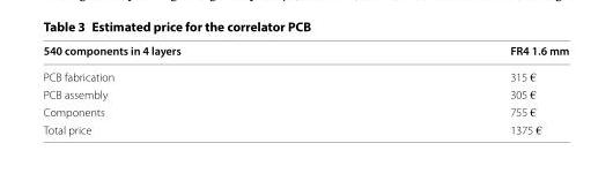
<table><thead><tr><td>540 components in 4 layers</td><td>FR4 1.6 mm</td></tr></thead><tbody><tr><td>PCB fabrication</td><td>315 €</td></tr><tr><td>PCB assembly</td><td>305 €</td></tr><tr><td>Components</td><td>755 €</td></tr><tr><td>Total price</td><td>1375 €</td></tr></tbody></table>